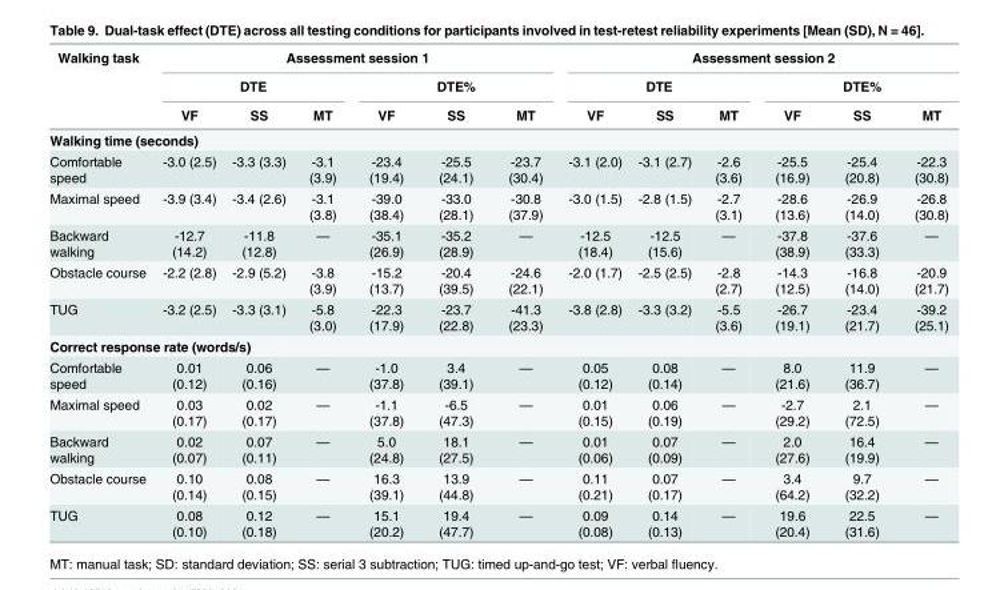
<table><thead><tr><td rowspan="3">Walking task</td><td colspan="6">Assessment session 1</td><td colspan="6">Assessment session 2</td></tr><tr><td colspan="3">DTE</td><td colspan="3">DTE%</td><td colspan="3">DTE</td><td colspan="3">DTE%</td></tr><tr><td>VF</td><td>SS</td><td>MT</td><td>VF</td><td>SS</td><td>MT</td><td>VF</td><td>SS</td><td>MT</td><td>VF</td><td>SS</td><td>MT</td></tr></thead><tbody><tr><td colspan="13">Walking time (seconds)</td></tr><tr><td>Comfortable speed</td><td>-3.0 (2.5)</td><td>-3.3 (3.3)</td><td>-3.1 (3.9)</td><td>-23.4 (19.4)</td><td>-25.5 (24.1)</td><td>-23.7 (30.4)</td><td>-3.1 (2.0)</td><td>-3.1 (2.7)</td><td>-2.6 (3.6)</td><td>-25.5 (16.9)</td><td>-25.4 (20.8)</td><td>-22.3 (30.8)</td></tr><tr><td>Maximal speed</td><td>-3.9 (3.4)</td><td>-3.4 (2.6)</td><td>-3.1 (3.8)</td><td>-39.0 (38.4)</td><td>-33.0 (28.1)</td><td>-30.8 (37.9)</td><td>-3.0 (1.5)</td><td>-2.8 (1.5)</td><td>-2.7 (3.1)</td><td>-28.6 (13.6)</td><td>-26.9 (14.0)</td><td>-26.8 (30.8)</td></tr><tr><td>Backward walking</td><td>-12.7 (14.2)</td><td>-11.8 (12.8)</td><td>—</td><td>-35.1 (26.9)</td><td>-35.2 (28.9)</td><td>—</td><td>-12.5 (18.4)</td><td>-12.5 (15.6)</td><td>—</td><td>-37.8 (38.9)</td><td>-37.6 (33.3)</td><td>—</td></tr><tr><td>Obstacle course</td><td>-2.2 (2.8)</td><td>-2.9 (5.2)</td><td>-3.8 (3.9)</td><td>-15.2 (13.7)</td><td>-20.4 (39.5)</td><td>-24.6 (22.1)</td><td>-2.0 (1.7)</td><td>-2.5 (2.5)</td><td>-2.8 (2.7)</td><td>-14.3 (12.5)</td><td>-16.8 (14.0)</td><td>-20.9 (21.7)</td></tr><tr><td>TUG</td><td>-3.2 (2.5)</td><td>-3.3 (3.1)</td><td>-5.8 (3.0)</td><td>-22.3 (17.9)</td><td>-23.7 (22.8)</td><td>-41.3 (23.3)</td><td>-3.8 (2.8)</td><td>-3.3 (3.2)</td><td>-5.5 (3.6)</td><td>-26.7 (19.1)</td><td>-23.4 (21.7)</td><td>-39.2 (25.1)</td></tr><tr><td colspan="13">Correct response rate (words/s)</td></tr><tr><td>Comfortable speed</td><td>0.01 (0.12)</td><td>0.06 (0.16)</td><td>—</td><td>-1.0 (37.8)</td><td>3.4 (39.1)</td><td>—</td><td>0.05 (0.12)</td><td>0.08 (0.14)</td><td>—</td><td>8.0 (21.6)</td><td>11.9 (36.7)</td><td>—</td></tr><tr><td>Maximal speed</td><td>0.03 (0.17)</td><td>0.02 (0.17)</td><td>—</td><td>-1.1 (37.8)</td><td>-6.5 (47.3)</td><td>—</td><td>0.01 (0.15)</td><td>0.06 (0.19)</td><td>—</td><td>-2.7 (29.2)</td><td>2.1 (72.5)</td><td>—</td></tr><tr><td>Backward walking</td><td>0.02 (0.07)</td><td>0.07 (0.11)</td><td>—</td><td>5.0 (24.8)</td><td>18.1 (27.5)</td><td>—</td><td>0.01 (0.06)</td><td>0.07 (0.09)</td><td>—</td><td>2.0 (27.6)</td><td>16.4 (19.9)</td><td>—</td></tr><tr><td>Obstacle course</td><td>0.10 (0.14)</td><td>0.08 (0.15)</td><td>—</td><td>16.3 (39.1)</td><td>13.9 (44.8)</td><td>—</td><td>0.11 (0.21)</td><td>0.07 (0.17)</td><td>—</td><td>3.4 (64.2)</td><td>9.7 (32.2)</td><td>—</td></tr><tr><td>TUG</td><td>0.08 (0.10)</td><td>0.12 (0.18)</td><td>—</td><td>15.1 (20.2)</td><td>19.4 (47.7)</td><td>—</td><td>0.09 (0.08)</td><td>0.14 (0.13)</td><td>—</td><td>19.6 (20.4)</td><td>22.5 (31.6)</td><td>—</td></tr></tbody></table>